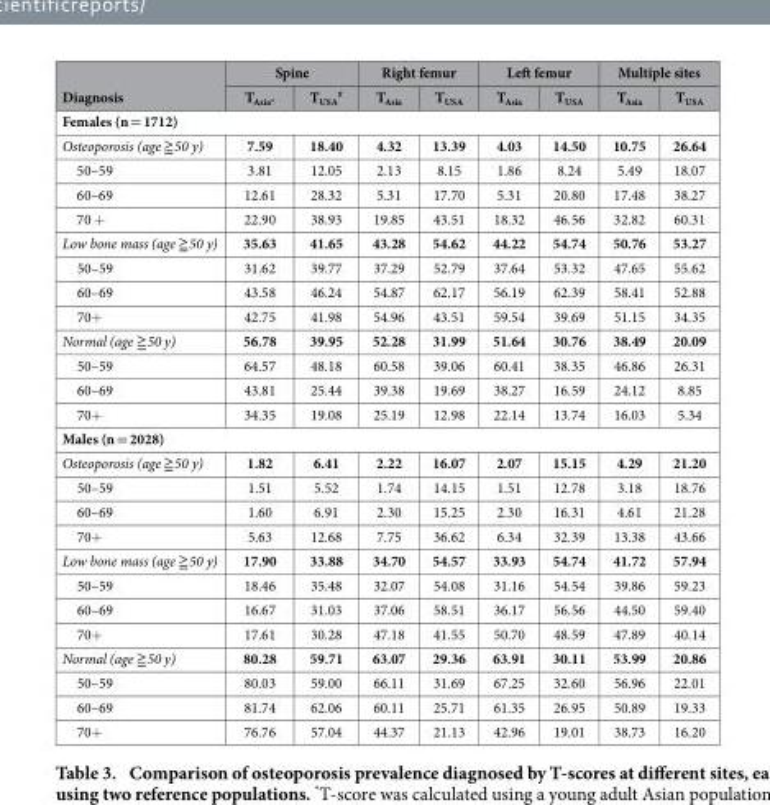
<table><thead><tr><td rowspan="2">Diagnosis</td><td colspan="2">Spine</td><td colspan="2">Right femur</td><td colspan="2">Left femur</td><td colspan="2">Multiple sites</td></tr><tr><td>T<sub>Asia</sub>*</td><td>T<sub>USA</sub> #</td><td>T<sub>Asia</sub></td><td>T<sub>USA</sub></td><td>T<sub>Asia</sub></td><td>T<sub>USA</sub></td><td>T<sub>Asia</sub></td><td>T<sub>USA</sub></td></tr></thead><tbody><tr><td colspan="9">Females (n = 1712)</td></tr><tr><td>Osteoporosis (age ≧ 50 y)</td><td>7.59</td><td>18.40</td><td>4.32</td><td>13.39</td><td>4.03</td><td>14.50</td><td>10.75</td><td>26.64</td></tr><tr><td>50–59</td><td>3.81</td><td>12.05</td><td>2.13</td><td>8.15</td><td>1.86</td><td>8.24</td><td>5.49</td><td>18.07</td></tr><tr><td>60–69</td><td>12.61</td><td>28.32</td><td>5.31</td><td>17.70</td><td>5.31</td><td>20.80</td><td>17.48</td><td>38.27</td></tr><tr><td>70 +</td><td>22.90</td><td>38.93</td><td>19.85</td><td>43.51</td><td>18.32</td><td>46.56</td><td>32.82</td><td>60.31</td></tr><tr><td>Low bone mass (age ≧ 50 y)</td><td>35.63</td><td>41.65</td><td>43.28</td><td>54.62</td><td>44.22</td><td>54.74</td><td>50.76</td><td>53.27</td></tr><tr><td>50–59</td><td>31.62</td><td>39.77</td><td>37.29</td><td>52.79</td><td>37.64</td><td>53.32</td><td>47.65</td><td>55.62</td></tr><tr><td>60–69</td><td>43.58</td><td>46.24</td><td>54.87</td><td>62.17</td><td>56.19</td><td>62.39</td><td>58.41</td><td>52.88</td></tr><tr><td>70+</td><td>42.75</td><td>41.98</td><td>54.96</td><td>43.51</td><td>59.54</td><td>39.69</td><td>51.15</td><td>34.35</td></tr><tr><td>Normal (age ≧ 50 y)</td><td>56.78</td><td>39.95</td><td>52.28</td><td>31.99</td><td>51.64</td><td>30.76</td><td>38.49</td><td>20.09</td></tr><tr><td>50–59</td><td>64.57</td><td>48.18</td><td>60.58</td><td>39.06</td><td>60.41</td><td>38.35</td><td>46.86</td><td>26.31</td></tr><tr><td>60–69</td><td>43.81</td><td>25.44</td><td>39.38</td><td>19.69</td><td>38.27</td><td>16.59</td><td>24.12</td><td>8.85</td></tr><tr><td>70+</td><td>34.35</td><td>19.08</td><td>25.19</td><td>12.98</td><td>22.14</td><td>13.74</td><td>16.03</td><td>5.34</td></tr><tr><td colspan="9">Males (n = 2028)</td></tr><tr><td>Osteoporosis (age ≧ 50 y)</td><td>1.82</td><td>6.41</td><td>2.22</td><td>16.07</td><td>2.07</td><td>15.15</td><td>4.29</td><td>21.20</td></tr><tr><td>50–59</td><td>1.51</td><td>5.52</td><td>1.74</td><td>14.15</td><td>1.51</td><td>12.78</td><td>3.18</td><td>18.76</td></tr><tr><td>60–69</td><td>1.60</td><td>6.91</td><td>2.30</td><td>15.25</td><td>2.30</td><td>16.31</td><td>4.61</td><td>21.28</td></tr><tr><td>70+</td><td>5.63</td><td>12.68</td><td>7.75</td><td>36.62</td><td>6.34</td><td>32.39</td><td>13.38</td><td>43.66</td></tr><tr><td>Low bone mass (age ≧ 50 y)</td><td>17.90</td><td>33.88</td><td>34.70</td><td>54.57</td><td>33.93</td><td>54.74</td><td>41.72</td><td>57.94</td></tr><tr><td>50–59</td><td>18.46</td><td>35.48</td><td>32.07</td><td>54.08</td><td>31.16</td><td>54.54</td><td>39.86</td><td>59.23</td></tr><tr><td>60–69</td><td>16.67</td><td>31.03</td><td>37.06</td><td>58.51</td><td>36.17</td><td>56.56</td><td>44.50</td><td>59.40</td></tr><tr><td>70+</td><td>17.61</td><td>30.28</td><td>47.18</td><td>41.55</td><td>50.70</td><td>48.59</td><td>47.89</td><td>40.14</td></tr><tr><td>Normal (age ≧ 50 y)</td><td>80.28</td><td>59.71</td><td>63.07</td><td>29.36</td><td>63.91</td><td>30.11</td><td>53.99</td><td>20.86</td></tr><tr><td>50–59</td><td>80.03</td><td>59.00</td><td>66.11</td><td>31.69</td><td>67.25</td><td>32.60</td><td>56.96</td><td>22.01</td></tr><tr><td>60–69</td><td>81.74</td><td>62.06</td><td>60.11</td><td>25.71</td><td>61.35</td><td>26.95</td><td>50.89</td><td>19.33</td></tr><tr><td>70+</td><td>76.76</td><td>57.04</td><td>44.37</td><td>21.13</td><td>42.96</td><td>19.01</td><td>38.73</td><td>16.20</td></tr></tbody></table>